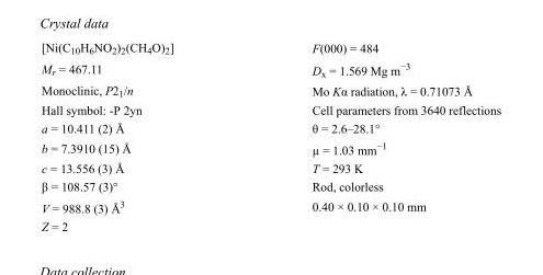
<table><tbody><tr><td>[Ni(C<sub>10</sub>H<sub>6</sub>NO<sub>2</sub>)<sub>2</sub>(CH<sub>4</sub>O)<sub>2</sub>]</td><td>F(000) = 484</td></tr><tr><td>M<sub>r</sub> = 467.11</td><td>D<sub>x</sub> = 1.569 Mg m<sup>−3</sup></td></tr><tr><td>Monoclinic, P2<sub>1</sub>/n</td><td>Mo Kα radiation, λ = 0.71073 Å</td></tr><tr><td>Hall symbol: -P 2yn</td><td>Cell parameters from 3640 reflections</td></tr><tr><td>a = 10.411 (2) Å</td><td>θ = 2.6–28.1°</td></tr><tr><td>b = 7.3910 (15) Å</td><td>µ = 1.03 mm<sup>−1</sup></td></tr><tr><td>c = 13.556 (3) Å</td><td>T = 293 K</td></tr><tr><td>β = 108.57 (3)°</td><td>Rod, colorless</td></tr><tr><td>V = 988.8 (3) Å<sup>3</sup></td><td>0.40 × 0.10 × 0.10 mm</td></tr><tr><td>Z = 2</td><td></td></tr></tbody></table>